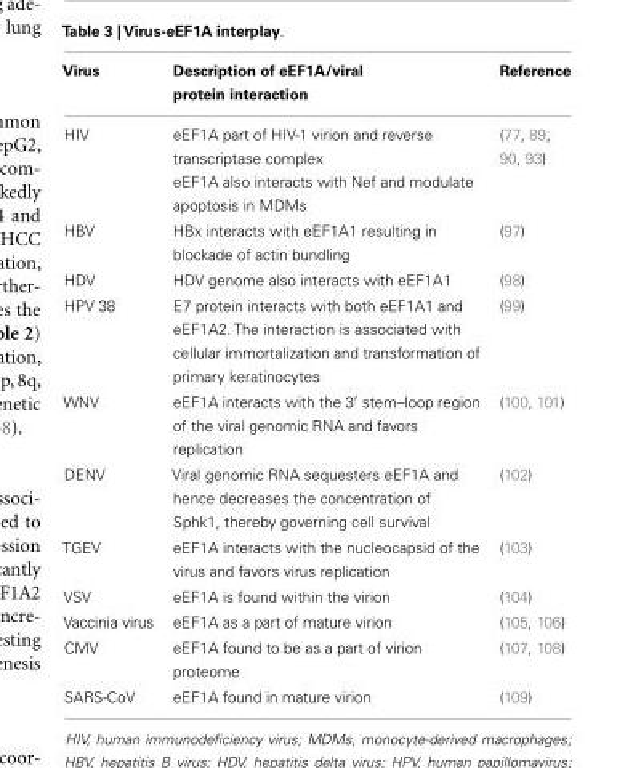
<table><thead><tr><td>Virus</td><td>Description of eEF1A/viral protein interaction</td><td>Reference</td></tr></thead><tbody><tr><td rowspan="2">HIV</td><td>eEF1A part of HIV-1 virion and reverse transcriptase complex</td><td>(77, 89, 90, 93)</td></tr><tr><td>eEF1A also interacts with Nef and modulate apoptosis in MDMs</td><td></td></tr><tr><td>HBV</td><td>HBx interacts with eEF1A1 resulting in blockade of actin bundling</td><td>(97)</td></tr><tr><td>HDV</td><td>HDV genome also interacts with eEF1A1</td><td>(98)</td></tr><tr><td>HPV 38</td><td>E7 protein interacts with both eEF1A1 and eEF1A2. The interaction is associated with cellular immortalization and transformation of primary keratinocytes</td><td>(99)</td></tr><tr><td>WNV</td><td>eEF1A interacts with the 3′ stem–loop region of the viral genomic RNA and favors replication</td><td>(100, 101)</td></tr><tr><td>DENV</td><td>Viral genomic RNA sequesters eEF1A and hence decreases the concentration of Sphk1, thereby governing cell survival</td><td>(102)</td></tr><tr><td>TGEV</td><td>eEF1A interacts with the nucleocapsid of the virus and favors virus replication</td><td>(103)</td></tr><tr><td>VSV</td><td>eEF1A is found within the virion</td><td>(104)</td></tr><tr><td>Vaccinia virus</td><td>eEF1A as a part of mature virion</td><td>(105, 106)</td></tr><tr><td>CMV</td><td>eEF1A found to be as a part of virion proteome</td><td>(107, 108)</td></tr><tr><td>SARS-CoV</td><td>eEF1A found in mature virion</td><td>(109)</td></tr></tbody></table>